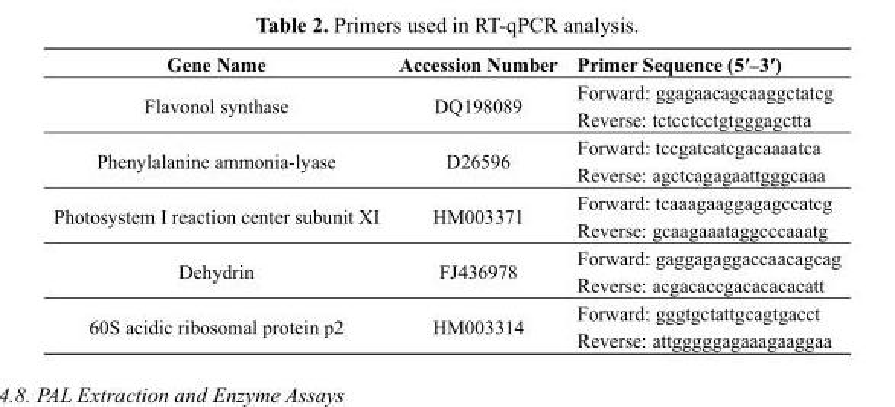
<table><thead><tr><td>Gene Name</td><td>Accession Number</td><td>Primer Sequence (5′–3′)</td></tr></thead><tbody><tr><td rowspan="2">Flavonol synthase</td><td rowspan="2">DQ198089</td><td>Forward: ggagaacagcaaggctatcg</td></tr><tr><td>Reverse: tctcctcctgtgggagctta</td></tr><tr><td rowspan="2">Phenylalanine ammonia-lyase</td><td rowspan="2">D26596</td><td>Forward: tccgatcatcgacaaaatca</td></tr><tr><td>Reverse: agctcagagaattgggcaaa</td></tr><tr><td rowspan="2">Photosystem I reaction center subunit XI</td><td rowspan="2">HM003371</td><td>Forward: tcaaagaaggagagccatcg</td></tr><tr><td>Reverse: gcaagaaataggcccaaatg</td></tr><tr><td rowspan="2">Dehydrin</td><td rowspan="2">FJ436978</td><td>Forward: gaggagaggaccaacagcag</td></tr><tr><td>Reverse: acgacaccgacacacacatt</td></tr><tr><td rowspan="2">60S acidic ribosomal protein p2</td><td rowspan="2">HM003314</td><td>Forward: gggtgctattgcagtgacct</td></tr><tr><td>Reverse: attgggggagaaagaaggaa</td></tr></tbody></table>